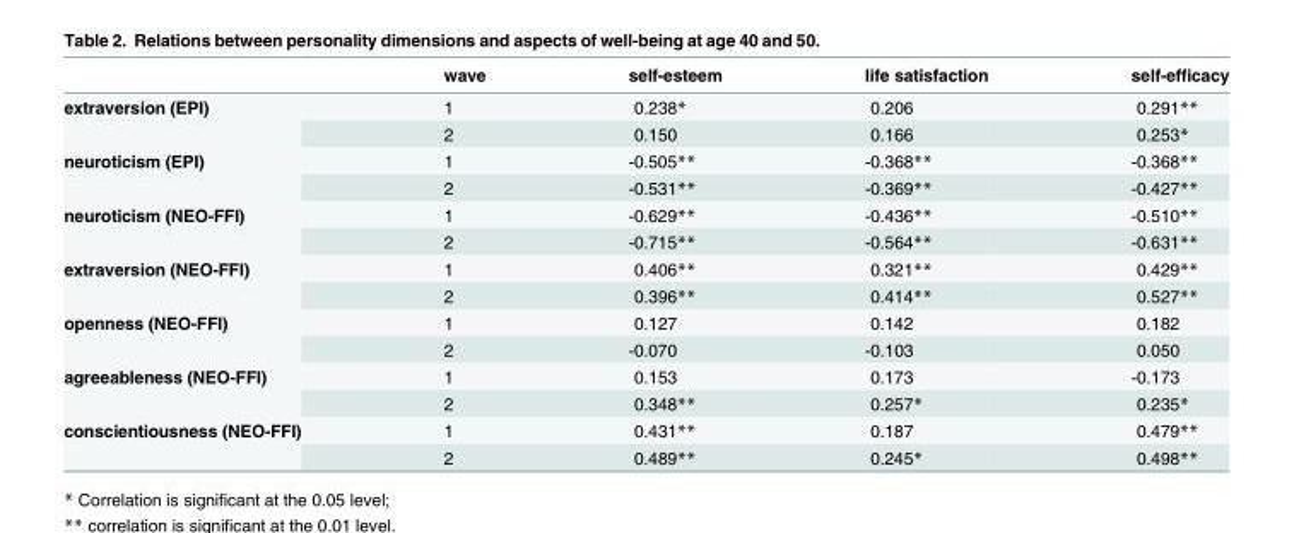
<table><thead><tr><td></td><td>wave</td><td>self-esteem</td><td>life satisfaction</td><td>self-efficacy</td></tr></thead><tbody><tr><td rowspan="2">extraversion (EPI)</td><td>1</td><td>0.238*</td><td>0.206</td><td>0.291**</td></tr><tr><td>2</td><td>0.150</td><td>0.166</td><td>0.253*</td></tr><tr><td rowspan="2">neuroticism (EPI)</td><td>1</td><td>-0.505**</td><td>-0.368**</td><td>-0.368**</td></tr><tr><td>2</td><td>-0.531**</td><td>-0.369**</td><td>-0.427**</td></tr><tr><td rowspan="2">neuroticism (NEO-FFI)</td><td>1</td><td>-0.629**</td><td>-0.436**</td><td>-0.510**</td></tr><tr><td>2</td><td>-0.715**</td><td>-0.564**</td><td>-0.631**</td></tr><tr><td rowspan="2">extraversion (NEO-FFI)</td><td>1</td><td>0.406**</td><td>0.321**</td><td>0.429**</td></tr><tr><td>2</td><td>0.396**</td><td>0.414**</td><td>0.527**</td></tr><tr><td rowspan="2">openness (NEO-FFI)</td><td>1</td><td>0.127</td><td>0.142</td><td>0.182</td></tr><tr><td>2</td><td>-0.070</td><td>-0.103</td><td>0.050</td></tr><tr><td rowspan="2">agreeableness (NEO-FFI)</td><td>1</td><td>0.153</td><td>0.173</td><td>-0.173</td></tr><tr><td>2</td><td>0.348**</td><td>0.257*</td><td>0.235*</td></tr><tr><td rowspan="2">conscientiousness (NEO-FFI)</td><td>1</td><td>0.431**</td><td>0.187</td><td>0.479**</td></tr><tr><td>2</td><td>0.489**</td><td>0.245*</td><td>0.498**</td></tr></tbody></table>